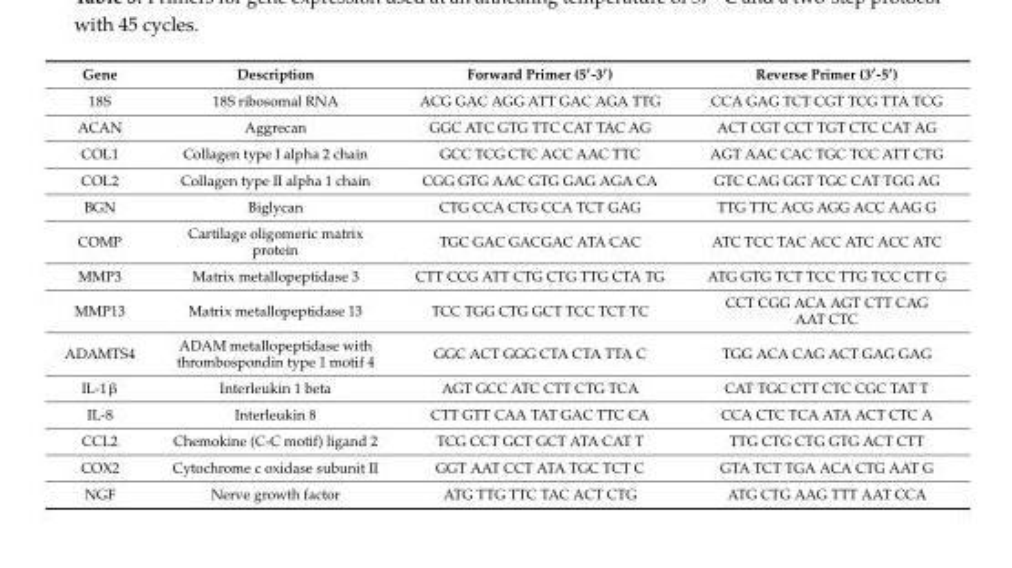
<table><thead><tr><td>Gene</td><td>Description</td><td>Forward Primer (5′-3′)</td><td>Reverse Primer (3′-5′)</td></tr></thead><tbody><tr><td>18S</td><td>18S ribosomal RNA</td><td>ACG GAC AGG ATT GAC AGA TTG</td><td>CCA GAG TCT CGT TCG TTA TCG</td></tr><tr><td>ACAN</td><td>Aggrecan</td><td>GGC ATC GTG TTC CAT TAC AG</td><td>ACT CGT CCT TGT CTC CAT AG</td></tr><tr><td>COL1</td><td>Collagen type I alpha 2 chain</td><td>GCC TCG CTC ACC AAC TTC</td><td>AGT AAC CAC TGC TCC ATT CTG</td></tr><tr><td>COL2</td><td>Collagen type II alpha 1 chain</td><td>CGG GTG AAC GTG GAG AGA CA</td><td>GTC CAG GGT TGC CAT TGG AG</td></tr><tr><td>BGN</td><td>Biglycan</td><td>CTG CCA CTG CCA TCT GAG</td><td>TTG TTC ACG AGG ACC AAG G</td></tr><tr><td>COMP</td><td>Cartilage oligomeric matrix protein</td><td>TGC GAC GACGAC ATA CAC</td><td>ATC TCC TAC ACC ATC ACC ATC</td></tr><tr><td>MMP3</td><td>Matrix metallopeptidase 3</td><td>CTT CCG ATT CTG CTG TTG CTA TG</td><td>ATG GTG TCT TCC TTG TCC CTT G</td></tr><tr><td>MMP13</td><td>Matrix metallopeptidase 13</td><td>TCC TGG CTG GCT TCC TCT TC</td><td>CCT CGG ACA AGT CTT CAG AAT CTC</td></tr><tr><td>ADAMTS4</td><td>ADAM metallopeptidase with thrombospondin type 1 motif 4</td><td>GGC ACT GGG CTA CTA TTA C</td><td>TGG ACA CAG ACT GAG GAG</td></tr><tr><td>IL-1β</td><td>Interleukin 1 beta</td><td>AGT GCC ATC CTT CTG TCA</td><td>CAT TGC CTT CTC CGC TAT T</td></tr><tr><td>IL-8</td><td>Interleukin 8</td><td>CTT GTT CAA TAT GAC TTC CA</td><td>CCA CTC TCA ATA ACT CTC A</td></tr><tr><td>CCL2</td><td>Chemokine (C-C motif) ligand 2</td><td>TCG CCT GCT GCT ATA CAT T</td><td>TTG CTG CTG GTG ACT CTT</td></tr><tr><td>COX2</td><td>Cytochrome c oxidase subunit II</td><td>GGT AAT CCT ATA TGC TCT C</td><td>GTA TCT TGA ACA CTG AAT G</td></tr><tr><td>NGF</td><td>Nerve growth factor</td><td>ATG TTG TTC TAC ACT CTG</td><td>ATG CTG AAG TTT AAT CCA</td></tr></tbody></table>